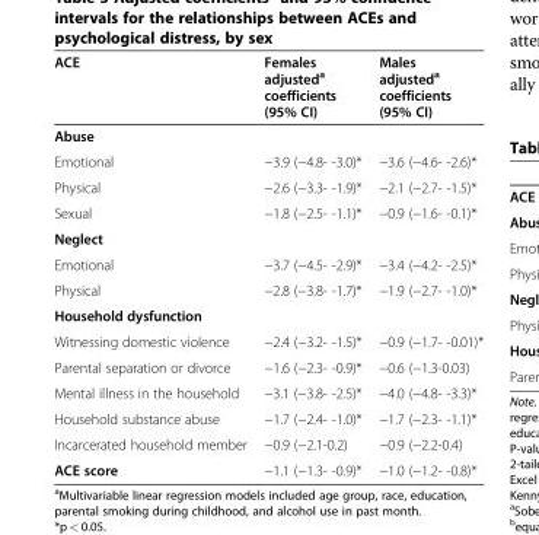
<table><thead><tr><td>ACE</td><td>Females adjusted<sup>a</sup> coefficients (95% CI)</td><td>Males adjusted<sup>a</sup> coefficients (95% CI)</td></tr></thead><tbody><tr><td colspan="3">Abuse</td></tr><tr><td>Emotional</td><td>−3.9 (−4.8- -3.0)*</td><td>−3.6 (−4.6- -2.6)*</td></tr><tr><td>Physical</td><td>−2.6 (−3.3- -1.9)*</td><td>−2.1 (−2.7- -1.5)*</td></tr><tr><td>Sexual</td><td>−1.8 (−2.5- -1.1)*</td><td>−0.9 (−1.6- -0.1)*</td></tr><tr><td colspan="3">Neglect</td></tr><tr><td>Emotional</td><td>−3.7 (−4.5- -2.9)*</td><td>−3.4 (−4.2- -2.5)*</td></tr><tr><td>Physical</td><td>−2.8 (−3.8- -1.7)*</td><td>−1.9 (−2.7- -1.0)*</td></tr><tr><td colspan="3">Household dysfunction</td></tr><tr><td>Witnessing domestic violence</td><td>−2.4 (−3.2- -1.5)*</td><td>−0.9 (−1.7- -0.01)*</td></tr><tr><td>Parental separation or divorce</td><td>−1.6 (−2.3- -0.9)*</td><td>−0.6 (−1.3-0.03)</td></tr><tr><td>Mental illness in the household</td><td>−3.1 (−3.8- -2.5)*</td><td>−4.0 (−4.8- -3.3)*</td></tr><tr><td>Household substance abuse</td><td>−1.7 (−2.4- -1.0)*</td><td>−1.7 (−2.3- -1.1)*</td></tr><tr><td>Incarcerated household member</td><td>−0.9 (−2.1-0.2)</td><td>−0.9 (−2.2-0.4)</td></tr><tr><td>ACE score</td><td>−1.1 (−1.3- -0.9)*</td><td>−1.0 (−1.2- -0.8)*</td></tr></tbody></table>